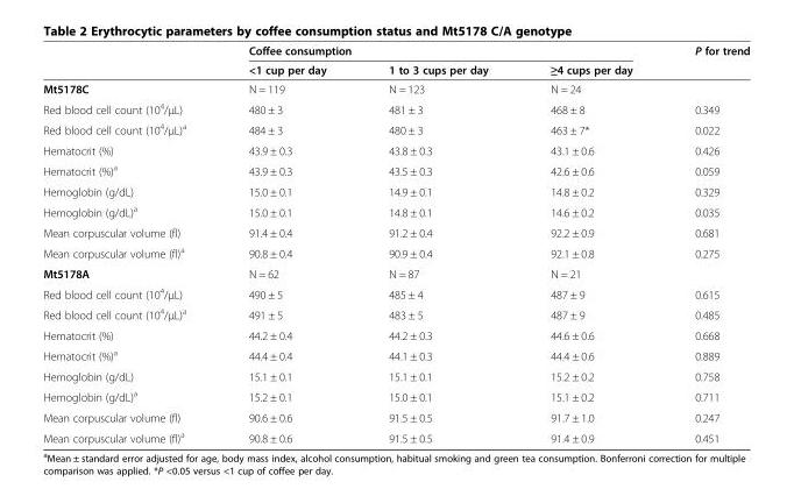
<table><thead><tr><td rowspan="2"></td><td colspan="3">Coffee consumption</td><td rowspan="2">P for trend</td></tr><tr><td>&lt;1 cup per day</td><td>1 to 3 cups per day</td><td>≥4 cups per day</td></tr></thead><tbody><tr><td>Mt5178C</td><td>N = 119</td><td>N = 123</td><td>N = 24</td><td></td></tr><tr><td>Red blood cell count (10<sup>4</sup>/μL)</td><td>480 ± 3</td><td>481 ± 3</td><td>468 ± 8</td><td>0.349</td></tr><tr><td>Red blood cell count (10<sup>4</sup>/μL)<sup>a</sup></td><td>484 ± 3</td><td>480 ± 3</td><td>463 ± 7*</td><td>0.022</td></tr><tr><td>Hematocrit (%)</td><td>43.9 ± 0.3</td><td>43.8 ± 0.3</td><td>43.1 ± 0.6</td><td>0.426</td></tr><tr><td>Hematocrit (%)<sup>a</sup></td><td>43.9 ± 0.3</td><td>43.5 ± 0.3</td><td>42.6 ± 0.6</td><td>0.059</td></tr><tr><td>Hemoglobin (g/dL)</td><td>15.0 ± 0.1</td><td>14.9 ± 0.1</td><td>14.8 ± 0.2</td><td>0.329</td></tr><tr><td>Hemoglobin (g/dL)<sup>a</sup></td><td>15.0 ± 0.1</td><td>14.8 ± 0.1</td><td>14.6 ± 0.2</td><td>0.035</td></tr><tr><td>Mean corpuscular volume (fl)</td><td>91.4 ± 0.4</td><td>91.2 ± 0.4</td><td>92.2 ± 0.9</td><td>0.681</td></tr><tr><td>Mean corpuscular volume (fl)<sup>a</sup></td><td>90.8 ± 0.4</td><td>90.9 ± 0.4</td><td>92.1 ± 0.8</td><td>0.275</td></tr><tr><td>Mt5178A</td><td>N = 62</td><td>N = 87</td><td>N = 21</td><td></td></tr><tr><td>Red blood cell count (10<sup>4</sup>/μL)</td><td>490 ± 5</td><td>485 ± 4</td><td>487 ± 9</td><td>0.615</td></tr><tr><td>Red blood cell count (10<sup>4</sup>/μL)<sup>a</sup></td><td>491 ± 5</td><td>483 ± 5</td><td>487 ± 9</td><td>0.485</td></tr><tr><td>Hematocrit (%)</td><td>44.2 ± 0.4</td><td>44.2 ± 0.3</td><td>44.6 ± 0.6</td><td>0.668</td></tr><tr><td>Hematocrit (%)<sup>a</sup></td><td>44.4 ± 0.4</td><td>44.1 ± 0.3</td><td>44.4 ± 0.6</td><td>0.889</td></tr><tr><td>Hemoglobin (g/dL)</td><td>15.1 ± 0.1</td><td>15.1 ± 0.1</td><td>15.2 ± 0.2</td><td>0.758</td></tr><tr><td>Hemoglobin (g/dL)<sup>a</sup></td><td>15.2 ± 0.1</td><td>15.0 ± 0.1</td><td>15.1 ± 0.2</td><td>0.711</td></tr><tr><td>Mean corpuscular volume (fl)</td><td>90.6 ± 0.6</td><td>91.5 ± 0.5</td><td>91.7 ± 1.0</td><td>0.247</td></tr><tr><td>Mean corpuscular volume (fl)<sup>a</sup></td><td>90.8 ± 0.6</td><td>91.5 ± 0.5</td><td>91.4 ± 0.9</td><td>0.451</td></tr></tbody></table>